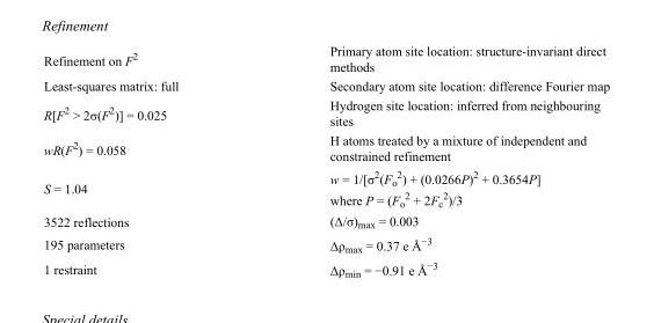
<table><tbody><tr><td>Refinement on F<sup>2</sup></td><td>Primary atom site location: structure-invariant direct methods</td></tr><tr><td>Least-squares matrix: full</td><td>Secondary atom site location: difference Fourier map</td></tr><tr><td>R[F<sup>2</sup> &gt; 2σ(F<sup>2</sup>)] = 0.025</td><td>Hydrogen site location: inferred from neighbouring sites</td></tr><tr><td>wR(F<sup>2</sup>) = 0.058</td><td>H atoms treated by a mixture of independent and constrained refinement</td></tr><tr><td>S = 1.04</td><td>w = 1/[σ<sup>2</sup>(F<sub>o</sub> <sup>2</sup>) + (0.0266P)<sup>2</sup> + 0.3654P] where P = (F<sub>o</sub> <sup>2</sup> + 2F<sub>c</sub> <sup>2</sup>)/3</td></tr><tr><td>3522 reflections</td><td>(Δ/σ)<sub>max</sub> = 0.003</td></tr><tr><td>195 parameters</td><td>Δρ<sub>max</sub> = 0.37 e Å<sup>−3</sup></td></tr><tr><td>1 restraint</td><td>Δρ<sub>min</sub> = −0.91 e Å<sup>−3</sup></td></tr></tbody></table>